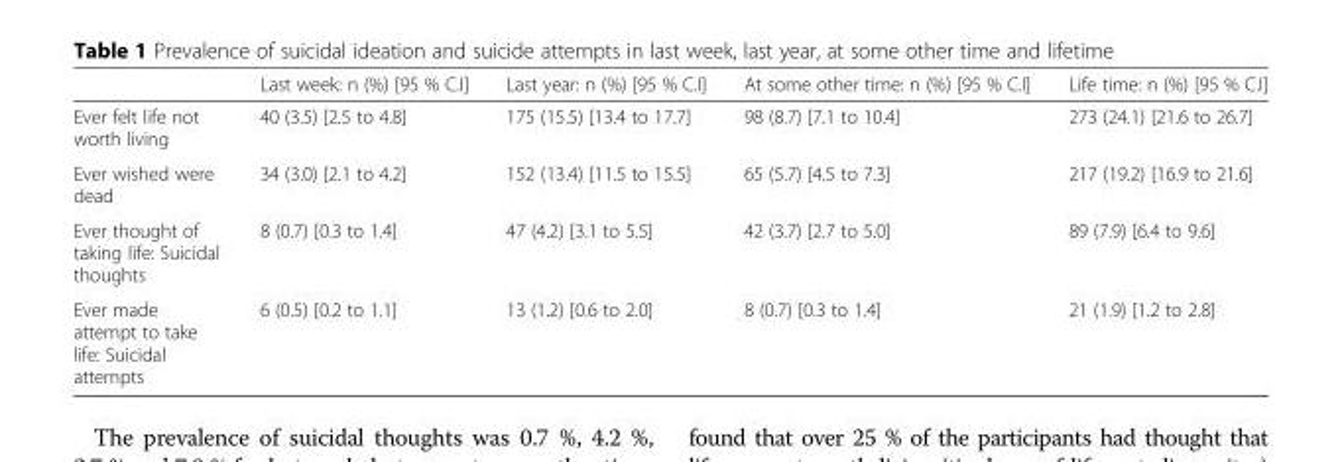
<table><thead><tr><td></td><td>Last week: n (%) [95 % C.I]</td><td>Last year: n (%) [95 % C.I]</td><td>At some other time: n (%) [95 % C.I]</td><td>Life time: n (%) [95 % C.I]</td></tr></thead><tbody><tr><td>Ever felt life not worth living</td><td>40 (3.5) [2.5 to 4.8]</td><td>175 (15.5) [13.4 to 17.7]</td><td>98 (8.7) [7.1 to 10.4]</td><td>273 (24.1) [21.6 to 26.7]</td></tr><tr><td>Ever wished were dead</td><td>34 (3.0) [2.1 to 4.2]</td><td>152 (13.4) [11.5 to 15.5]</td><td>65 (5.7) [4.5 to 7.3]</td><td>217 (19.2) [16.9 to 21.6]</td></tr><tr><td>Ever thought of taking life: Suicidal thoughts</td><td>8 (0.7) [0.3 to 1.4]</td><td>47 (4.2) [3.1 to 5.5]</td><td>42 (3.7) [2.7 to 5.0]</td><td>89 (7.9) [6.4 to 9.6]</td></tr><tr><td>Ever made attempt to take life: Suicidal attempts</td><td>6 (0.5) [0.2 to 1.1]</td><td>13 (1.2) [0.6 to 2.0]</td><td>8 (0.7) [0.3 to 1.4]</td><td>21 (1.9) [1.2 to 2.8]</td></tr></tbody></table>